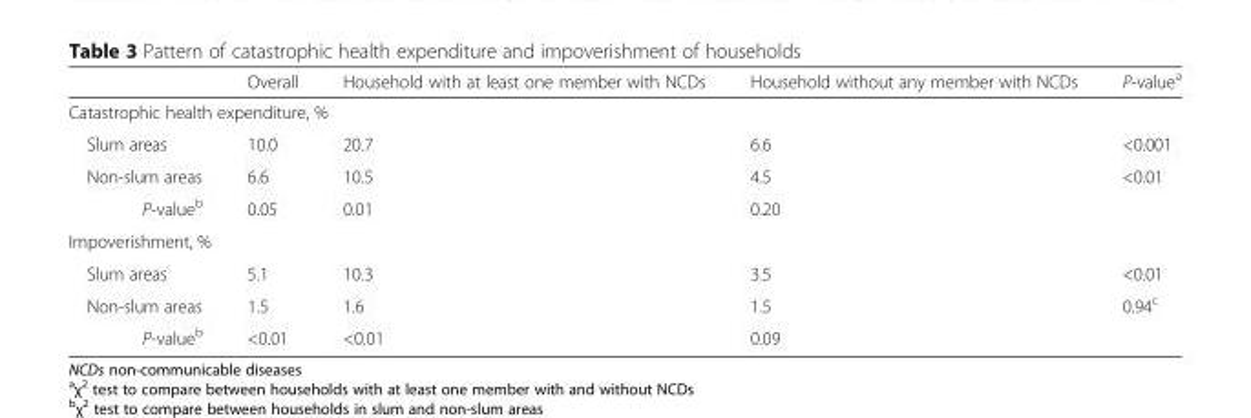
<table><thead><tr><td></td><td>Overall</td><td>Household with at least one member with NCDs</td><td>Household without any member with NCDs</td><td>P-value<sup>a</sup></td></tr></thead><tbody><tr><td colspan="5">Catastrophic health expenditure, %</td></tr><tr><td>Slum areas</td><td>10.0</td><td>20.7</td><td>6.6</td><td>&lt;0.001</td></tr><tr><td>Non-slum areas</td><td>6.6</td><td>10.5</td><td>4.5</td><td>&lt;0.01</td></tr><tr><td>P-value<sup>b</sup></td><td>0.05</td><td>0.01</td><td>0.20</td><td></td></tr><tr><td colspan="5">Impoverishment, %</td></tr><tr><td>Slum areas</td><td>5.1</td><td>10.3</td><td>3.5</td><td>&lt;0.01</td></tr><tr><td>Non-slum areas</td><td>1.5</td><td>1.6</td><td>1.5</td><td>0.94<sup>c</sup></td></tr><tr><td>P-value<sup>b</sup></td><td>&lt;0.01</td><td>&lt;0.01</td><td>0.09</td><td></td></tr></tbody></table>